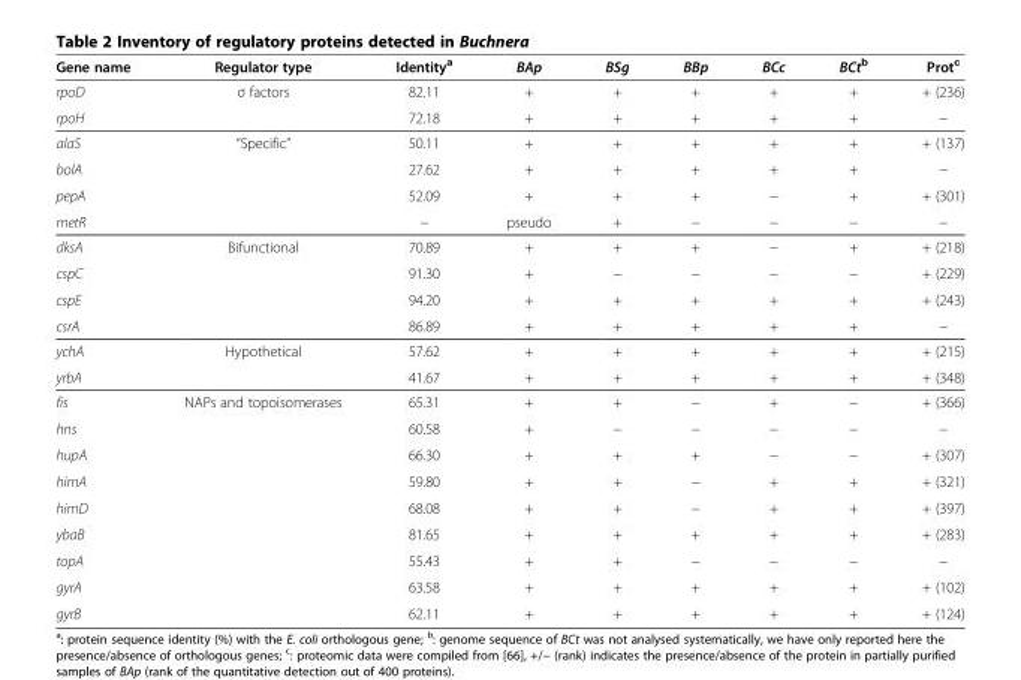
<table><thead><tr><td>Gene name</td><td>Regulator type</td><td>Identity<sup>a</sup></td><td>BAp</td><td>BSg</td><td>BBp</td><td>BCc</td><td>BCt<sup>b</sup></td><td>Prot<sup>c</sup></td></tr></thead><tbody><tr><td>rpoD</td><td>σ factors</td><td>82.11</td><td>+</td><td>+</td><td>+</td><td>+</td><td>+</td><td>+ (236)</td></tr><tr><td>rpoH</td><td></td><td>72.18</td><td>+</td><td>+</td><td>+</td><td>+</td><td>+</td><td>−</td></tr><tr><td>alaS</td><td rowspan="3">“Specific”</td><td>50.11</td><td>+</td><td>+</td><td>+</td><td>+</td><td>+</td><td>+ (137)</td></tr><tr><td>bolA</td><td>27.62</td><td>+</td><td>+</td><td>+</td><td>+</td><td>+</td><td>−</td></tr><tr><td>pepA</td><td>52.09</td><td>+</td><td>+</td><td>+</td><td>−</td><td>+</td><td>+ (301)</td></tr><tr><td>metR</td><td></td><td>−</td><td>pseudo</td><td>+</td><td>−</td><td>−</td><td>−</td><td>−</td></tr><tr><td>dksA</td><td>Bifunctional</td><td>70.89</td><td>+</td><td>+</td><td>+</td><td>−</td><td>+</td><td>+ (218)</td></tr><tr><td>cspC</td><td></td><td>91.30</td><td>+</td><td>−</td><td>−</td><td>−</td><td>−</td><td>+ (229)</td></tr><tr><td>cspE</td><td></td><td>94.20</td><td>+</td><td>+</td><td>+</td><td>+</td><td>+</td><td>+ (243)</td></tr><tr><td>csrA</td><td></td><td>86.89</td><td>+</td><td>+</td><td>+</td><td>+</td><td>+</td><td>−</td></tr><tr><td>ychA</td><td>Hypothetical</td><td>57.62</td><td>+</td><td>+</td><td>+</td><td>+</td><td>+</td><td>+ (215)</td></tr><tr><td>yrbA</td><td></td><td>41.67</td><td>+</td><td>+</td><td>+</td><td>+</td><td>+</td><td>+ (348)</td></tr><tr><td>fis</td><td rowspan="8">NAPs and topoisomerases</td><td>65.31</td><td>+</td><td>+</td><td>−</td><td>+</td><td>−</td><td>+ (366)</td></tr><tr><td>hns</td><td>60.58</td><td>+</td><td>−</td><td>−</td><td>−</td><td>−</td><td>−</td></tr><tr><td>hupA</td><td>66.30</td><td>+</td><td>+</td><td>+</td><td>−</td><td>−</td><td>+ (307)</td></tr><tr><td>himA</td><td>59.80</td><td>+</td><td>+</td><td>−</td><td>+</td><td>+</td><td>+ (321)</td></tr><tr><td>himD</td><td>68.08</td><td>+</td><td>+</td><td>−</td><td>+</td><td>+</td><td>+ (397)</td></tr><tr><td>ybaB</td><td>81.65</td><td>+</td><td>+</td><td>+</td><td>+</td><td>+</td><td>+ (283)</td></tr><tr><td>topA</td><td>55.43</td><td>+</td><td>+</td><td>−</td><td>−</td><td>−</td><td>−</td></tr><tr><td>gyrA</td><td>63.58</td><td>+</td><td>+</td><td>+</td><td>+</td><td>+</td><td>+ (102)</td></tr><tr><td>gyrB</td><td></td><td>62.11</td><td>+</td><td>+</td><td>+</td><td>+</td><td>+</td><td>+ (124)</td></tr></tbody></table>